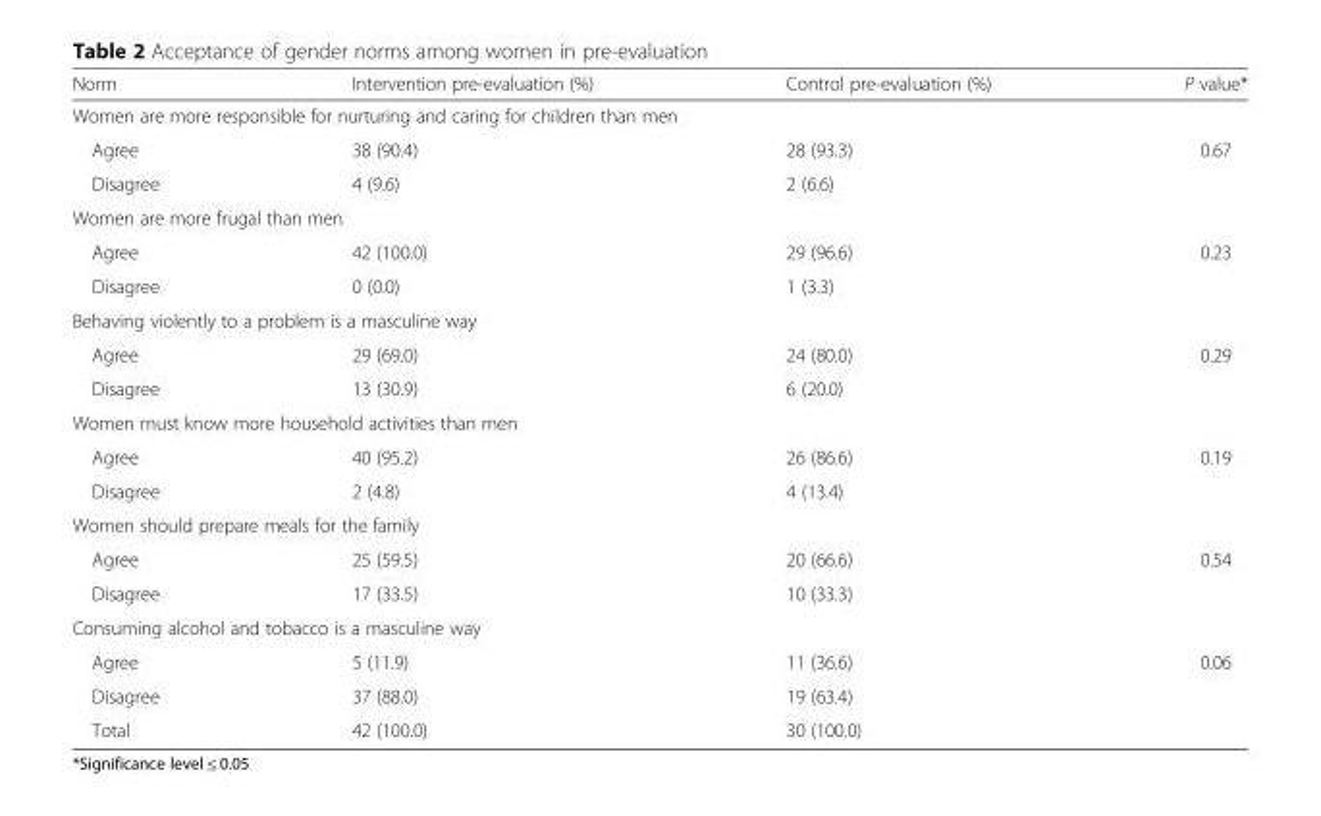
<table><thead><tr><td>Norm</td><td>Intervention pre-evaluation (%)</td><td>Control pre-evaluation (%)</td><td>P value*</td></tr></thead><tbody><tr><td colspan="4">Women are more responsible for nurturing and caring for children than men</td></tr><tr><td>Agree</td><td>38 (90.4)</td><td>28 (93.3)</td><td rowspan="2">0.67</td></tr><tr><td>Disagree</td><td>4 (9.6)</td><td>2 (6.6)</td></tr><tr><td colspan="4">Women are more frugal than men</td></tr><tr><td>Agree</td><td>42 (100.0)</td><td>29 (96.6)</td><td rowspan="2">0.23</td></tr><tr><td>Disagree</td><td>0 (0.0)</td><td>1 (3.3)</td></tr><tr><td colspan="4">Behaving violently to a problem is a masculine way</td></tr><tr><td>Agree</td><td>29 (69.0)</td><td>24 (80.0)</td><td rowspan="2">0.29</td></tr><tr><td>Disagree</td><td>13 (30.9)</td><td>6 (20.0)</td></tr><tr><td colspan="4">Women must know more household activities than men</td></tr><tr><td>Agree</td><td>40 (95.2)</td><td>26 (86.6)</td><td rowspan="2">0.19</td></tr><tr><td>Disagree</td><td>2 (4.8)</td><td>4 (13.4)</td></tr><tr><td colspan="4">Women should prepare meals for the family</td></tr><tr><td>Agree</td><td>25 (59.5)</td><td>20 (66.6)</td><td rowspan="2">0.54</td></tr><tr><td>Disagree</td><td>17 (33.5)</td><td>10 (33.3)</td></tr><tr><td colspan="4">Consuming alcohol and tobacco is a masculine way</td></tr><tr><td>Agree</td><td>5 (11.9)</td><td>11 (36.6)</td><td rowspan="2">0.06</td></tr><tr><td>Disagree</td><td>37 (88.0)</td><td>19 (63.4)</td></tr><tr><td>Total</td><td>42 (100.0)</td><td>30 (100.0)</td><td></td></tr></tbody></table>